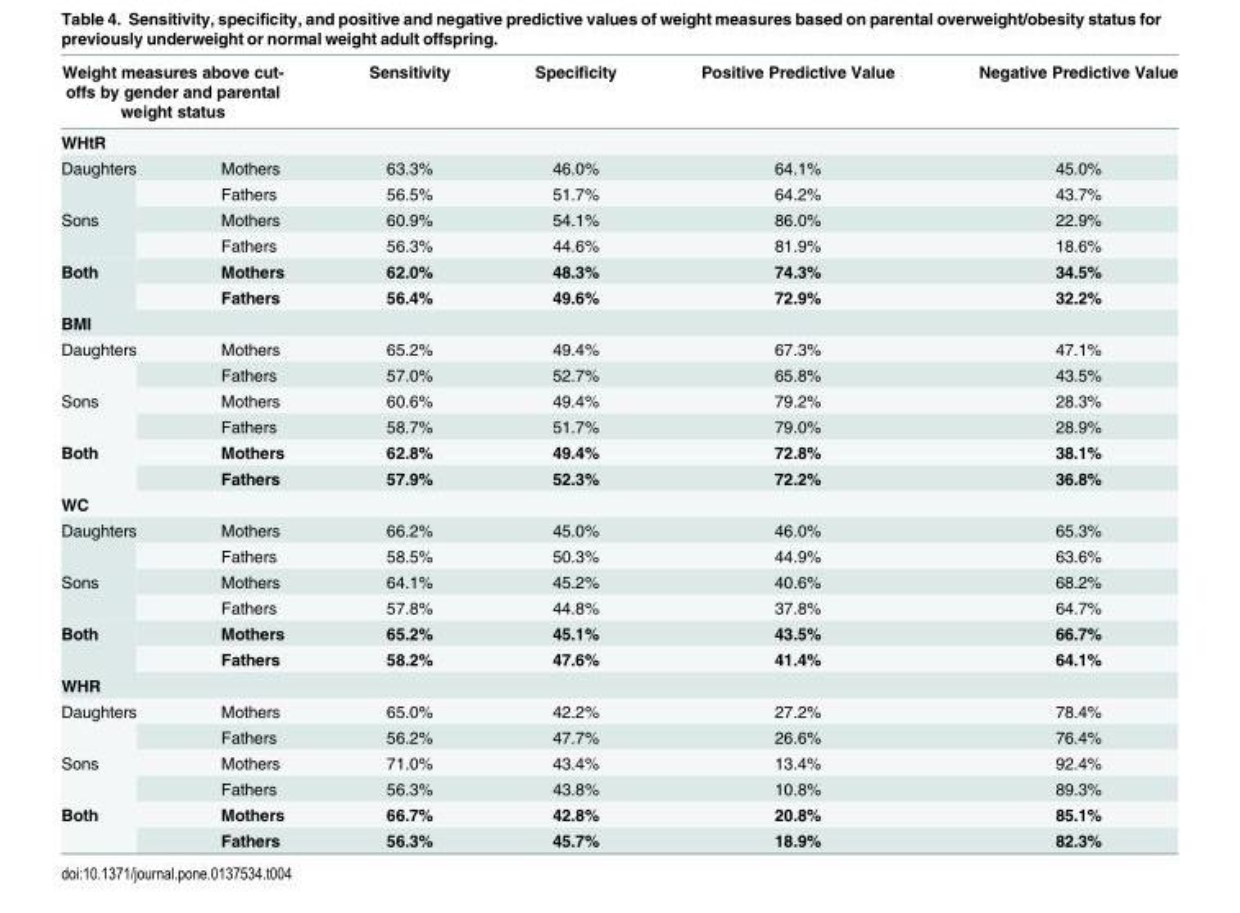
<table><thead><tr><td colspan="2">Weight measures above cut- offs by gender and parental weight status</td><td rowspan="2">Sensitivity</td><td rowspan="2">Specificity</td><td rowspan="2">Positive Predictive Value</td><td rowspan="2">Negative Predictive Value</td></tr><tr><td>WHtR</td><td></td></tr></thead><tbody><tr><td rowspan="2">Daughters</td><td>Mothers</td><td>63.3%</td><td>46.0%</td><td>64.1%</td><td>45.0%</td></tr><tr><td>Fathers</td><td>56.5%</td><td>51.7%</td><td>64.2%</td><td>43.7%</td></tr><tr><td rowspan="2">Sons</td><td>Mothers</td><td>60.9%</td><td>54.1%</td><td>86.0%</td><td>22.9%</td></tr><tr><td>Fathers</td><td>56.3%</td><td>44.6%</td><td>81.9%</td><td>18.6%</td></tr><tr><td rowspan="2">Both</td><td>Mothers</td><td>62.0%</td><td>48.3%</td><td>74.3%</td><td>34.5%</td></tr><tr><td>Fathers</td><td>56.4%</td><td>49.6%</td><td>72.9%</td><td>32.2%</td></tr><tr><td colspan="6">BMI</td></tr><tr><td rowspan="2">Daughters</td><td>Mothers</td><td>65.2%</td><td>49.4%</td><td>67.3%</td><td>47.1%</td></tr><tr><td>Fathers</td><td>57.0%</td><td>52.7%</td><td>65.8%</td><td>43.5%</td></tr><tr><td rowspan="2">Sons</td><td>Mothers</td><td>60.6%</td><td>49.4%</td><td>79.2%</td><td>28.3%</td></tr><tr><td>Fathers</td><td>58.7%</td><td>51.7%</td><td>79.0%</td><td>28.9%</td></tr><tr><td rowspan="2">Both</td><td>Mothers</td><td>62.8%</td><td>49.4%</td><td>72.8%</td><td>38.1%</td></tr><tr><td>Fathers</td><td>57.9%</td><td>52.3%</td><td>72.2%</td><td>36.8%</td></tr><tr><td colspan="6">WC</td></tr><tr><td rowspan="2">Daughters</td><td>Mothers</td><td>66.2%</td><td>45.0%</td><td>46.0%</td><td>65.3%</td></tr><tr><td>Fathers</td><td>58.5%</td><td>50.3%</td><td>44.9%</td><td>63.6%</td></tr><tr><td rowspan="2">Sons</td><td>Mothers</td><td>64.1%</td><td>45.2%</td><td>40.6%</td><td>68.2%</td></tr><tr><td>Fathers</td><td>57.8%</td><td>44.8%</td><td>37.8%</td><td>64.7%</td></tr><tr><td rowspan="2">Both</td><td>Mothers</td><td>65.2%</td><td>45.1%</td><td>43.5%</td><td>66.7%</td></tr><tr><td>Fathers</td><td>58.2%</td><td>47.6%</td><td>41.4%</td><td>64.1%</td></tr><tr><td colspan="6">WHR</td></tr><tr><td rowspan="2">Daughters</td><td>Mothers</td><td>65.0%</td><td>42.2%</td><td>27.2%</td><td>78.4%</td></tr><tr><td>Fathers</td><td>56.2%</td><td>47.7%</td><td>26.6%</td><td>76.4%</td></tr><tr><td rowspan="2">Sons</td><td>Mothers</td><td>71.0%</td><td>43.4%</td><td>13.4%</td><td>92.4%</td></tr><tr><td>Fathers</td><td>56.3%</td><td>43.8%</td><td>10.8%</td><td>89.3%</td></tr><tr><td rowspan="2">Both</td><td>Mothers</td><td>66.7%</td><td>42.8%</td><td>20.8%</td><td>85.1%</td></tr><tr><td>Fathers</td><td>56.3%</td><td>45.7%</td><td>18.9%</td><td>82.3%</td></tr></tbody></table>